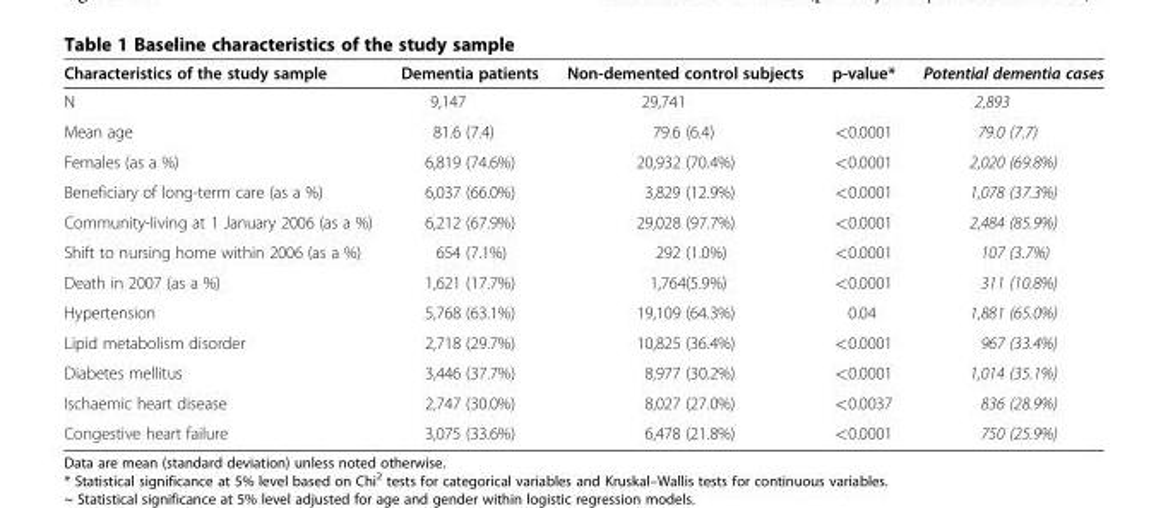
<table><thead><tr><td>Characteristics of the study sample</td><td>Dementia patients</td><td>Non-demented control subjects</td><td>p-value*</td><td>Potential dementia cases</td></tr></thead><tbody><tr><td>N</td><td>9,147</td><td>29,741</td><td></td><td>2,893</td></tr><tr><td>Mean age</td><td>81.6 (7.4)</td><td>79.6 (6.4)</td><td>&lt;0.0001</td><td>79.0 (7.7)</td></tr><tr><td>Females (as a %)</td><td>6,819 (74.6%)</td><td>20,932 (70.4%)</td><td>&lt;0.0001</td><td>2,020 (69.8%)</td></tr><tr><td>Beneficiary of long-term care (as a %)</td><td>6,037 (66.0%)</td><td>3,829 (12.9%)</td><td>&lt;0.0001</td><td>1,078 (37.3%)</td></tr><tr><td>Community-living at 1 January 2006 (as a %)</td><td>6,212 (67.9%)</td><td>29,028 (97.7%)</td><td>&lt;0.0001</td><td>2,484 (85.9%)</td></tr><tr><td>Shift to nursing home within 2006 (as a %)</td><td>654 (7.1%)</td><td>292 (1.0%)</td><td>&lt;0.0001</td><td>107 (3.7%)</td></tr><tr><td>Death in 2007 (as a %)</td><td>1,621 (17.7%)</td><td>1,764(5.9%)</td><td>&lt;0.0001</td><td>311 (10.8%)</td></tr><tr><td>Hypertension</td><td>5,768 (63.1%)</td><td>19,109 (64.3%)</td><td>0.04</td><td>1,881 (65.0%)</td></tr><tr><td>Lipid metabolism disorder</td><td>2,718 (29.7%)</td><td>10,825 (36.4%)</td><td>&lt;0.0001</td><td>967 (33.4%)</td></tr><tr><td>Diabetes mellitus</td><td>3,446 (37.7%)</td><td>8,977 (30.2%)</td><td>&lt;0.0001</td><td>1,014 (35.1%)</td></tr><tr><td>Ischaemic heart disease</td><td>2,747 (30.0%)</td><td>8,027 (27.0%)</td><td>&lt;0.0037</td><td>836 (28.9%)</td></tr><tr><td>Congestive heart failure</td><td>3,075 (33.6%)</td><td>6,478 (21.8%)</td><td>&lt;0.0001</td><td>750 (25.9%)</td></tr></tbody></table>